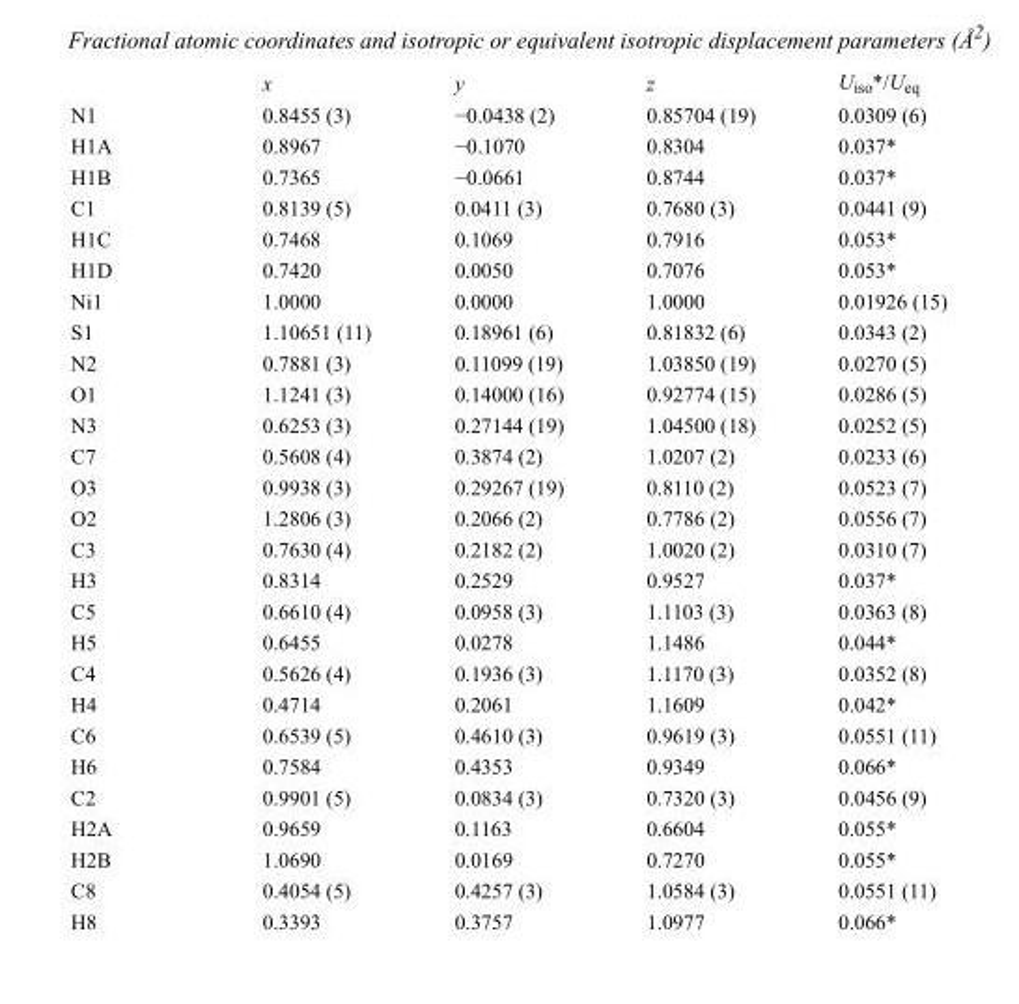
<table><thead><tr><td></td><td>x</td><td>y</td><td>z</td><td>U<sub>iso</sub>*/U<sub>eq</sub></td></tr></thead><tbody><tr><td>N1</td><td>0.8455 (3)</td><td>−0.0438 (2)</td><td>0.85704 (19)</td><td>0.0309 (6)</td></tr><tr><td>H1A</td><td>0.8967</td><td>−0.1070</td><td>0.8304</td><td>0.037*</td></tr><tr><td>H1B</td><td>0.7365</td><td>−0.0661</td><td>0.8744</td><td>0.037*</td></tr><tr><td>C1</td><td>0.8139 (5)</td><td>0.0411 (3)</td><td>0.7680 (3)</td><td>0.0441 (9)</td></tr><tr><td>H1C</td><td>0.7468</td><td>0.1069</td><td>0.7916</td><td>0.053*</td></tr><tr><td>H1D</td><td>0.7420</td><td>0.0050</td><td>0.7076</td><td>0.053*</td></tr><tr><td>Ni1</td><td>1.0000</td><td>0.0000</td><td>1.0000</td><td>0.01926 (15)</td></tr><tr><td>S1</td><td>1.10651 (11)</td><td>0.18961 (6)</td><td>0.81832 (6)</td><td>0.0343 (2)</td></tr><tr><td>N2</td><td>0.7881 (3)</td><td>0.11099 (19)</td><td>1.03850 (19)</td><td>0.0270 (5)</td></tr><tr><td>O1</td><td>1.1241 (3)</td><td>0.14000 (16)</td><td>0.92774 (15)</td><td>0.0286 (5)</td></tr><tr><td>N3</td><td>0.6253 (3)</td><td>0.27144 (19)</td><td>1.04500 (18)</td><td>0.0252 (5)</td></tr><tr><td>C7</td><td>0.5608 (4)</td><td>0.3874 (2)</td><td>1.0207 (2)</td><td>0.0233 (6)</td></tr><tr><td>O3</td><td>0.9938 (3)</td><td>0.29267 (19)</td><td>0.8110 (2)</td><td>0.0523 (7)</td></tr><tr><td>O2</td><td>1.2806 (3)</td><td>0.2066 (2)</td><td>0.7786 (2)</td><td>0.0556 (7)</td></tr><tr><td>C3</td><td>0.7630 (4)</td><td>0.2182 (2)</td><td>1.0020 (2)</td><td>0.0310 (7)</td></tr><tr><td>H3</td><td>0.8314</td><td>0.2529</td><td>0.9527</td><td>0.037*</td></tr><tr><td>C5</td><td>0.6610 (4)</td><td>0.0958 (3)</td><td>1.1103 (3)</td><td>0.0363 (8)</td></tr><tr><td>H5</td><td>0.6455</td><td>0.0278</td><td>1.1486</td><td>0.044*</td></tr><tr><td>C4</td><td>0.5626 (4)</td><td>0.1936 (3)</td><td>1.1170 (3)</td><td>0.0352 (8)</td></tr><tr><td>H4</td><td>0.4714</td><td>0.2061</td><td>1.1609</td><td>0.042*</td></tr><tr><td>C6</td><td>0.6539 (5)</td><td>0.4610 (3)</td><td>0.9619 (3)</td><td>0.0551 (11)</td></tr><tr><td>H6</td><td>0.7584</td><td>0.4353</td><td>0.9349</td><td>0.066*</td></tr><tr><td>C2</td><td>0.9901 (5)</td><td>0.0834 (3)</td><td>0.7320 (3)</td><td>0.0456 (9)</td></tr><tr><td>H2A</td><td>0.9659</td><td>0.1163</td><td>0.6604</td><td>0.055*</td></tr><tr><td>H2B</td><td>1.0690</td><td>0.0169</td><td>0.7270</td><td>0.055*</td></tr><tr><td>C8</td><td>0.4054 (5)</td><td>0.4257 (3)</td><td>1.0584 (3)</td><td>0.0551 (11)</td></tr><tr><td>H8</td><td>0.3393</td><td>0.3757</td><td>1.0977</td><td>0.066*</td></tr></tbody></table>